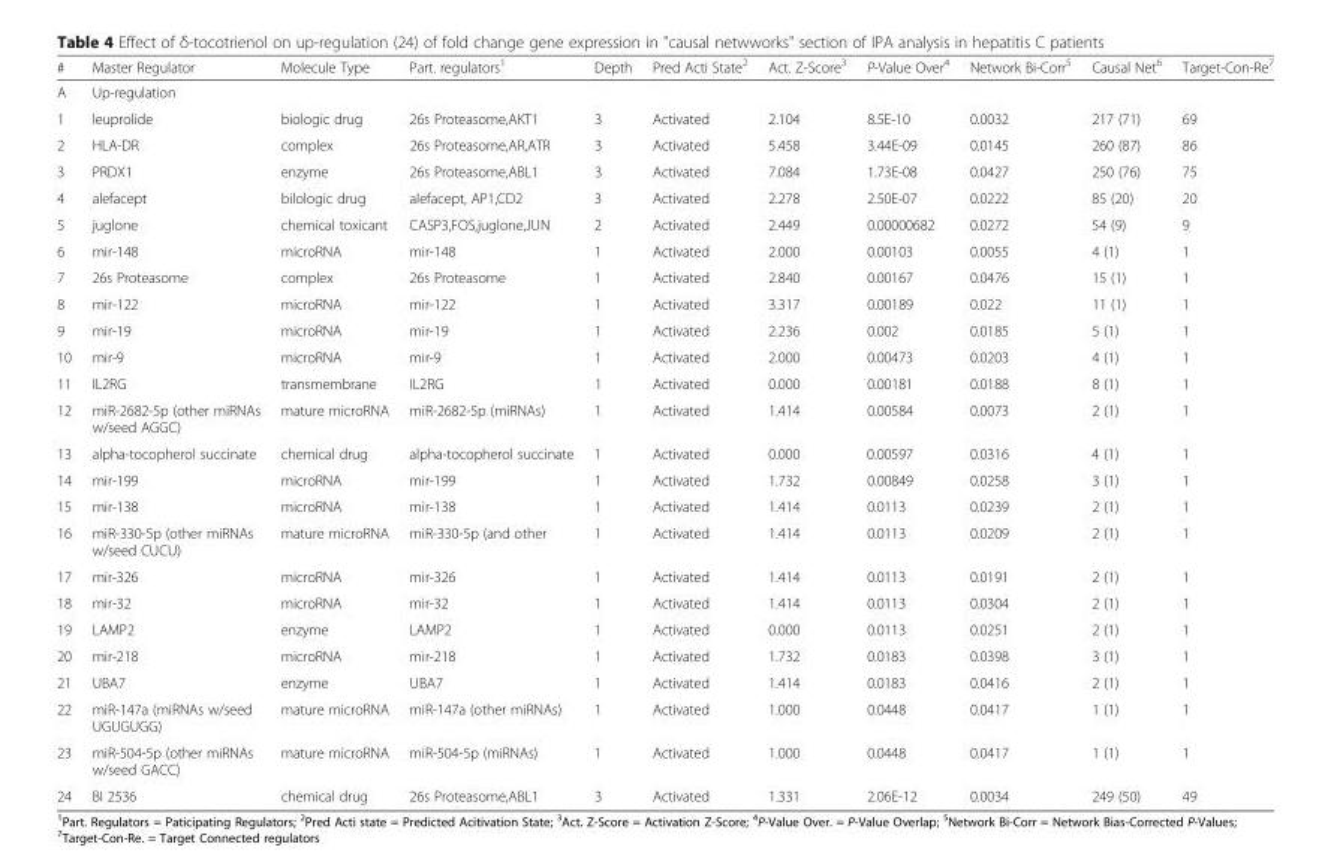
<table><thead><tr><td>#</td><td>Master Regulator</td><td>Molecule Type</td><td>Part. regulators<sup>1</sup></td><td>Depth</td><td>Pred Acti State<sup>2</sup></td><td>Act. Z-Score<sup>3</sup></td><td>P-Value Over<sup>4</sup></td><td>Network Bi-Corr<sup>5</sup></td><td>Causal Net<sup>6</sup></td><td>Target-Con-Re<sup>7</sup></td></tr></thead><tbody><tr><td>A</td><td>Up-regulation</td><td></td><td></td><td></td><td></td><td></td><td></td><td></td><td></td><td></td></tr><tr><td>1</td><td>leuprolide</td><td>biologic drug</td><td>26s Proteasome,AKT1</td><td>3</td><td>Activated</td><td>2.104</td><td>8.5E-10</td><td>0.0032</td><td>217 (71)</td><td>69</td></tr><tr><td>2</td><td>HLA-DR</td><td>complex</td><td>26s Proteasome,AR,ATR</td><td>3</td><td>Activated</td><td>5.458</td><td>3.44E-09</td><td>0.0145</td><td>260 (87)</td><td>86</td></tr><tr><td>3</td><td>PRDX1</td><td>enzyme</td><td>26s Proteasome,ABL1</td><td>3</td><td>Activated</td><td>7.084</td><td>1.73E-08</td><td>0.0427</td><td>250 (76)</td><td>75</td></tr><tr><td>4</td><td>alefacept</td><td>bilologic drug</td><td>alefacept, AP1,CD2</td><td>3</td><td>Activated</td><td>2.278</td><td>2.50E-07</td><td>0.0222</td><td>85 (20)</td><td>20</td></tr><tr><td>5</td><td>juglone</td><td>chemical toxicant</td><td>CASP3,FOS,juglone,JUN</td><td>2</td><td>Activated</td><td>2.449</td><td>0.00000682</td><td>0.0272</td><td>54 (9)</td><td>9</td></tr><tr><td>6</td><td>mir-148</td><td>microRNA</td><td>mir-148</td><td>1</td><td>Activated</td><td>2.000</td><td>0.00103</td><td>0.0055</td><td>4 (1)</td><td>1</td></tr><tr><td>7</td><td>26s Proteasome</td><td>complex</td><td>26s Proteasome</td><td>1</td><td>Activated</td><td>2.840</td><td>0.00167</td><td>0.0476</td><td>15 (1)</td><td>1</td></tr><tr><td>8</td><td>mir-122</td><td>microRNA</td><td>mir-122</td><td>1</td><td>Activated</td><td>3.317</td><td>0.00189</td><td>0.022</td><td>11 (1)</td><td>1</td></tr><tr><td>9</td><td>mir-19</td><td>microRNA</td><td>mir-19</td><td>1</td><td>Activated</td><td>2.236</td><td>0.002</td><td>0.0185</td><td>5 (1)</td><td>1</td></tr><tr><td>10</td><td>mir-9</td><td>microRNA</td><td>mir-9</td><td>1</td><td>Activated</td><td>2.000</td><td>0.00473</td><td>0.0203</td><td>4 (1)</td><td>1</td></tr><tr><td>11</td><td>IL2RG</td><td>transmembrane</td><td>IL2RG</td><td>1</td><td>Activated</td><td>0.000</td><td>0.00181</td><td>0.0188</td><td>8 (1)</td><td>1</td></tr><tr><td>12</td><td>miR-2682-5p (other miRNAs w/seed AGGC)</td><td>mature microRNA</td><td>miR-2682-5p (miRNAs)</td><td>1</td><td>Activated</td><td>1.414</td><td>0.00584</td><td>0.0073</td><td>2 (1)</td><td>1</td></tr><tr><td>13</td><td>alpha-tocopherol succinate</td><td>chemical drug</td><td>alpha-tocopherol succinate</td><td>1</td><td>Activated</td><td>0.000</td><td>0.00597</td><td>0.0316</td><td>4 (1)</td><td>1</td></tr><tr><td>14</td><td>mir-199</td><td>microRNA</td><td>mir-199</td><td>1</td><td>Activated</td><td>1.732</td><td>0.00849</td><td>0.0258</td><td>3 (1)</td><td>1</td></tr><tr><td>15</td><td>mir-138</td><td>microRNA</td><td>mir-138</td><td>1</td><td>Activated</td><td>1.414</td><td>0.0113</td><td>0.0239</td><td>2 (1)</td><td>1</td></tr><tr><td>16</td><td>miR-330-5p (other miRNAs w/seed CUCU)</td><td>mature microRNA</td><td>miR-330-5p (and other</td><td>1</td><td>Activated</td><td>1.414</td><td>0.0113</td><td>0.0209</td><td>2 (1)</td><td>1</td></tr><tr><td>17</td><td>mir-326</td><td>microRNA</td><td>mir-326</td><td>1</td><td>Activated</td><td>1.414</td><td>0.0113</td><td>0.0191</td><td>2 (1)</td><td>1</td></tr><tr><td>18</td><td>mir-32</td><td>microRNA</td><td>mir-32</td><td>1</td><td>Activated</td><td>1.414</td><td>0.0113</td><td>0.0304</td><td>2 (1)</td><td>1</td></tr><tr><td>19</td><td>LAMP2</td><td>enzyme</td><td>LAMP2</td><td>1</td><td>Activated</td><td>0.000</td><td>0.0113</td><td>0.0251</td><td>2 (1)</td><td>1</td></tr><tr><td>20</td><td>mir-218</td><td>microRNA</td><td>mir-218</td><td>1</td><td>Activated</td><td>1.732</td><td>0.0183</td><td>0.0398</td><td>3 (1)</td><td>1</td></tr><tr><td>21</td><td>UBA7</td><td>enzyme</td><td>UBA7</td><td>1</td><td>Activated</td><td>1.414</td><td>0.0183</td><td>0.0416</td><td>2 (1)</td><td>1</td></tr><tr><td>22</td><td>miR-147a (miRNAs w/seed UGUGUGG)</td><td>mature microRNA</td><td>miR-147a (other miRNAs)</td><td>1</td><td>Activated</td><td>1.000</td><td>0.0448</td><td>0.0417</td><td>1 (1)</td><td>1</td></tr><tr><td>23</td><td>miR-504-5p (other miRNAs w/seed GACC)</td><td>mature microRNA</td><td>miR-504-5p (miRNAs)</td><td>1</td><td>Activated</td><td>1.000</td><td>0.0448</td><td>0.0417</td><td>1 (1)</td><td>1</td></tr><tr><td>24</td><td>BI 2536</td><td>chemical drug</td><td>26s Proteasome,ABL1</td><td>3</td><td>Activated</td><td>1.331</td><td>2.06E-12</td><td>0.0034</td><td>249 (50)</td><td>49</td></tr></tbody></table>